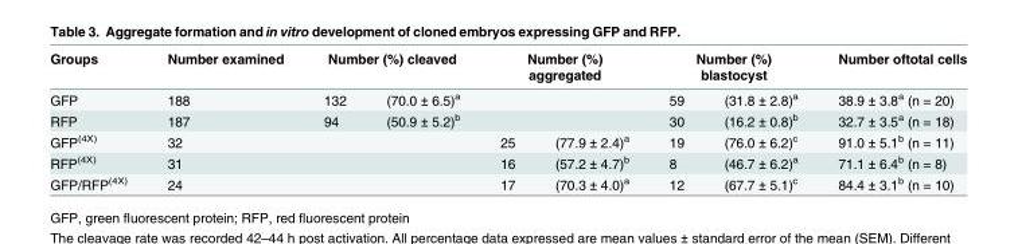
<table><thead><tr><td rowspan="2">Groups GFP</td><td rowspan="2">Number examined 188</td><td colspan="2">Number (%) cleaved</td><td colspan="2">Number (%) aggregated</td><td colspan="2">Number (%) blastocyst</td><td rowspan="2">Number oftotal cells 38.9 ± 3.8<sup>a</sup> (n = 20)</td></tr><tr><td>132</td><td>(70.0 ± 6.5)<sup>a</sup></td><td></td><td></td><td>59</td><td>(31.8 ± 2.8)<sup>a</sup></td></tr></thead><tbody><tr><td>RFP</td><td>187</td><td>94</td><td>(50.9 ± 5.2)<sup>b</sup></td><td></td><td></td><td>30</td><td>(16.2 ± 0.8)<sup>b</sup></td><td>32.7 ± 3.5<sup>a</sup> (n = 18)</td></tr><tr><td>GFP<sup>(4X)</sup></td><td>32</td><td></td><td></td><td>25</td><td>(77.9 ± 2.4)<sup>a</sup></td><td>19</td><td>(76.0 ± 6.2)<sup>c</sup></td><td>91.0 ± 5.1<sup>b</sup> (n = 11)</td></tr><tr><td>RFP<sup>(4X)</sup></td><td>31</td><td></td><td></td><td>16</td><td>(57.2 ± 4.7)<sup>b</sup></td><td>8</td><td>(46.7 ± 6.2)<sup>a</sup></td><td>71.1 ± 6.4<sup>b</sup> (n = 8)</td></tr><tr><td>GFP/RFP<sup>(4X)</sup></td><td>24</td><td></td><td></td><td>17</td><td>(70.3 ± 4.0)<sup>a</sup></td><td>12</td><td>(67.7 ± 5.1)<sup>c</sup></td><td>84.4 ± 3.1<sup>b</sup> (n = 10)</td></tr></tbody></table>